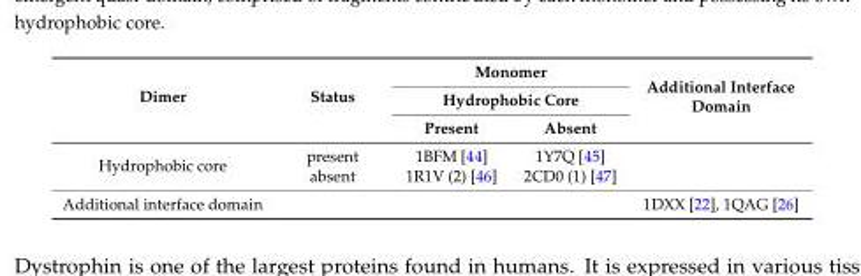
<table><thead><tr><td rowspan="3">Dimer</td><td rowspan="3">Status</td><td rowspan="2" colspan="2">Monomer Hydrophobic Core</td><td rowspan="3">Additional Interface Domain</td></tr><tr></tr><tr><td>Present</td><td>Absent</td></tr></thead><tbody><tr><td rowspan="2">Hydrophobic core</td><td>present</td><td>1BFM [44]</td><td>1Y7Q [45]</td><td></td></tr><tr><td>absent</td><td>1R1V (2) [46]</td><td>2CD0 (1) [47]</td><td></td></tr><tr><td>Additional interface domain</td><td></td><td></td><td></td><td>1DXX [22], 1QAG [26]</td></tr></tbody></table>